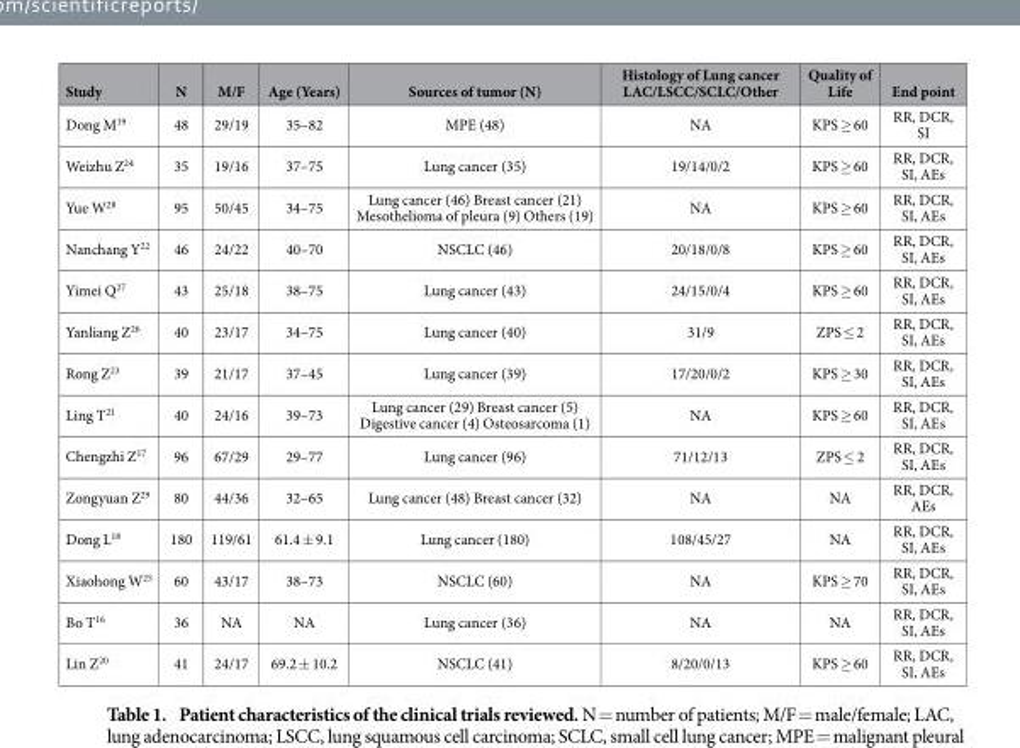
<table><thead><tr><td>Study</td><td>N</td><td>M/F</td><td>Age (Years)</td><td>Sources of tumor (N)</td><td>Histology of Lung cancer LAC/LSCC/SCLC/Other</td><td>Quality of Life</td><td>End point</td></tr></thead><tbody><tr><td>Dong M<sup>19</sup></td><td>48</td><td>29/19</td><td>35–82</td><td>MPE (48)</td><td>NA</td><td>KPS ≥ 60</td><td>RR, DCR, SI</td></tr><tr><td>Weizhu Z<sup>24</sup></td><td>35</td><td>19/16</td><td>37–75</td><td>Lung cancer (35)</td><td>19/14/0/2</td><td>KPS ≥ 60</td><td>RR, DCR, SI, AEs</td></tr><tr><td>Yue W<sup>28</sup></td><td>95</td><td>50/45</td><td>34–75</td><td>Lung cancer (46) Breast cancer (21) Mesothelioma of pleura (9) Others (19)</td><td>NA</td><td>KPS ≥ 60</td><td>RR, DCR, SI, AEs</td></tr><tr><td>Nanchang Y<sup>22</sup></td><td>46</td><td>24/22</td><td>40–70</td><td>NSCLC (46)</td><td>20/18/0/8</td><td>KPS ≥ 60</td><td>RR, DCR, SI, AEs</td></tr><tr><td>Yimei Q<sup>27</sup></td><td>43</td><td>25/18</td><td>38–75</td><td>Lung cancer (43)</td><td>24/15/0/4</td><td>KPS ≥ 60</td><td>RR, DCR, SI, AEs</td></tr><tr><td>Yanliang Z<sup>26</sup></td><td>40</td><td>23/17</td><td>34–75</td><td>Lung cancer (40)</td><td>31/9</td><td>ZPS ≤ 2</td><td>RR, DCR, SI, AEs</td></tr><tr><td>Rong Z<sup>23</sup></td><td>39</td><td>21/17</td><td>37–45</td><td>Lung cancer (39)</td><td>17/20/0/2</td><td>KPS ≥ 30</td><td>RR, DCR, SI, AEs</td></tr><tr><td>Ling T<sup>21</sup></td><td>40</td><td>24/16</td><td>39–73</td><td>Lung cancer (29) Breast cancer (5) Digestive cancer (4) Osteosarcoma (1)</td><td>NA</td><td>KPS ≥ 60</td><td>RR, DCR, SI, AEs</td></tr><tr><td>Chengzhi Z<sup>17</sup></td><td>96</td><td>67/29</td><td>29–77</td><td>Lung cancer (96)</td><td>71/12/13</td><td>ZPS ≤ 2</td><td>RR, DCR, SI, AEs</td></tr><tr><td>Zongyuan Z<sup>29</sup></td><td>80</td><td>44/36</td><td>32–65</td><td>Lung cancer (48) Breast cancer (32)</td><td>NA</td><td>NA</td><td>RR, DCR, AEs</td></tr><tr><td>Dong L<sup>18</sup></td><td>180</td><td>119/61</td><td>61.4 ± 9.1</td><td>Lung cancer (180)</td><td>108/45/27</td><td>NA</td><td>RR, DCR, SI, AEs</td></tr><tr><td>Xiaohong W<sup>25</sup></td><td>60</td><td>43/17</td><td>38–73</td><td>NSCLC (60)</td><td>NA</td><td>KPS ≥ 70</td><td>RR, DCR, SI, AEs</td></tr><tr><td>Bo T<sup>16</sup></td><td>36</td><td>NA</td><td>NA</td><td>Lung cancer (36)</td><td>NA</td><td>NA</td><td>RR, DCR, SI, AEs</td></tr><tr><td>Lin Z<sup>20</sup></td><td>41</td><td>24/17</td><td>69.2 ± 10.2</td><td>NSCLC (41)</td><td>8/20/0/13</td><td>KPS ≥ 60</td><td>RR, DCR, SI, AEs</td></tr></tbody></table>